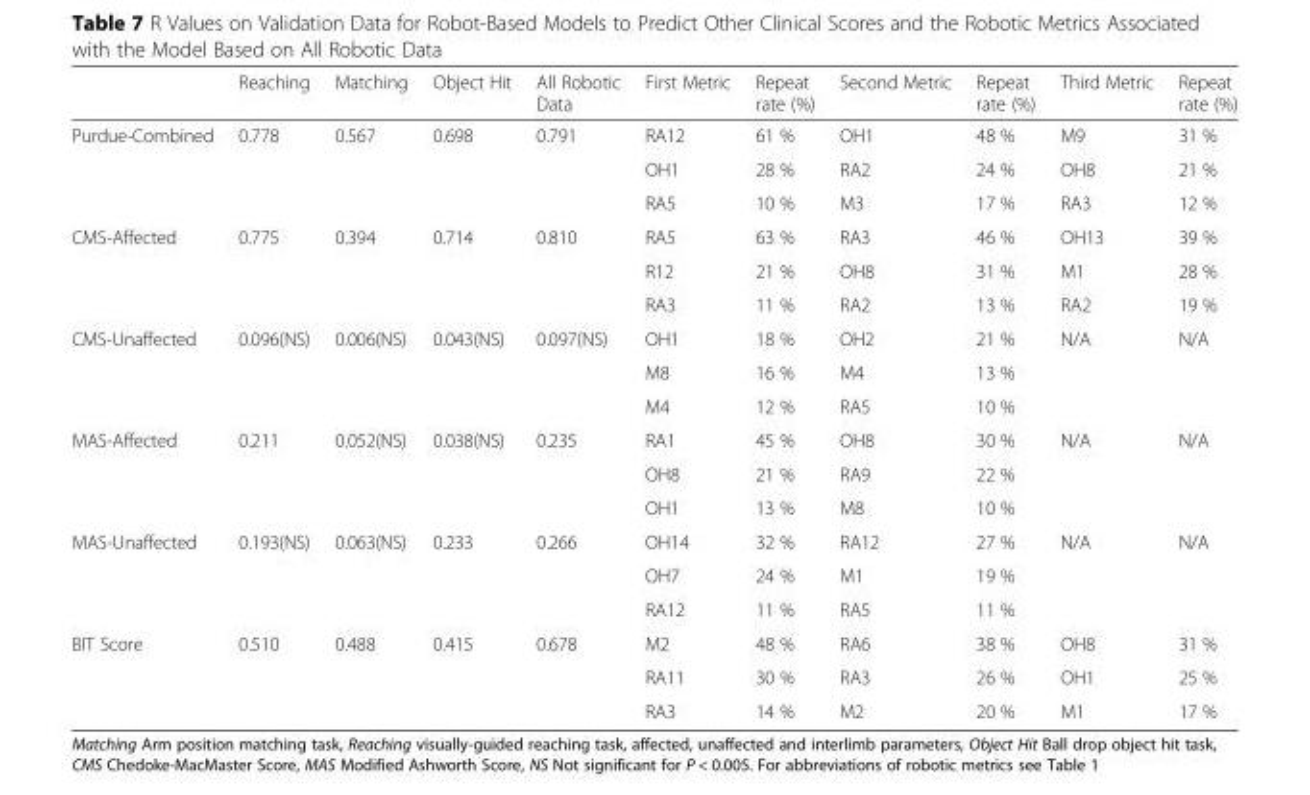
<table><thead><tr><td></td><td>Reaching</td><td>Matching</td><td>Object Hit</td><td>All Robotic Data</td><td>First Metric</td><td>Repeat rate (%)</td><td>Second Metric</td><td>Repeat rate (%)</td><td>Third Metric</td><td>Repeat rate (%)</td></tr></thead><tbody><tr><td rowspan="3">Purdue-Combined</td><td rowspan="3">0.778</td><td rowspan="3">0.567</td><td rowspan="3">0.698</td><td rowspan="3">0.791</td><td>RA12</td><td>61 %</td><td>OH1</td><td>48 %</td><td>M9</td><td>31 %</td></tr><tr><td>OH1</td><td>28 %</td><td>RA2</td><td>24 %</td><td>OH8</td><td>21 %</td></tr><tr><td>RA5</td><td>10 %</td><td>M3</td><td>17 %</td><td>RA3</td><td>12 %</td></tr><tr><td rowspan="3">CMS-Affected</td><td rowspan="3">0.775</td><td rowspan="3">0.394</td><td rowspan="3">0.714</td><td rowspan="3">0.810</td><td>RA5</td><td>63 %</td><td>RA3</td><td>46 %</td><td>OH13</td><td>39 %</td></tr><tr><td>R12</td><td>21 %</td><td>OH8</td><td>31 %</td><td>M1</td><td>28 %</td></tr><tr><td>RA3</td><td>11 %</td><td>RA2</td><td>13 %</td><td>RA2</td><td>19 %</td></tr><tr><td rowspan="3">CMS-Unaffected</td><td rowspan="3">0.096(NS)</td><td rowspan="3">0.006(NS)</td><td rowspan="3">0.043(NS)</td><td rowspan="3">0.097(NS)</td><td>OH1</td><td>18 %</td><td>OH2</td><td>21 %</td><td>N/A</td><td>N/A</td></tr><tr><td>M8</td><td>16 %</td><td>M4</td><td>13 %</td><td></td><td></td></tr><tr><td>M4</td><td>12 %</td><td>RA5</td><td>10 %</td><td></td><td></td></tr><tr><td rowspan="3">MAS-Affected</td><td rowspan="3">0.211</td><td rowspan="3">0.052(NS)</td><td rowspan="3">0.038(NS)</td><td rowspan="3">0.235</td><td>RA1</td><td>45 %</td><td>OH8</td><td>30 %</td><td>N/A</td><td>N/A</td></tr><tr><td>OH8</td><td>21 %</td><td>RA9</td><td>22 %</td><td></td><td></td></tr><tr><td>OH1</td><td>13 %</td><td>M8</td><td>10 %</td><td></td><td></td></tr><tr><td rowspan="3">MAS-Unaffected</td><td rowspan="3">0.193(NS)</td><td rowspan="3">0.063(NS)</td><td rowspan="3">0.233</td><td rowspan="3">0.266</td><td>OH14</td><td>32 %</td><td>RA12</td><td>27 %</td><td>N/A</td><td>N/A</td></tr><tr><td>OH7</td><td>24 %</td><td>M1</td><td>19 %</td><td></td><td></td></tr><tr><td>RA12</td><td>11 %</td><td>RA5</td><td>11 %</td><td></td><td></td></tr><tr><td rowspan="3">BIT Score</td><td rowspan="3">0.510</td><td rowspan="3">0.488</td><td rowspan="3">0.415</td><td rowspan="3">0.678</td><td>M2</td><td>48 %</td><td>RA6</td><td>38 %</td><td>OH8</td><td>31 %</td></tr><tr><td>RA11</td><td>30 %</td><td>RA3</td><td>26 %</td><td>OH1</td><td>25 %</td></tr><tr><td>RA3</td><td>14 %</td><td>M2</td><td>20 %</td><td>M1</td><td>17 %</td></tr></tbody></table>